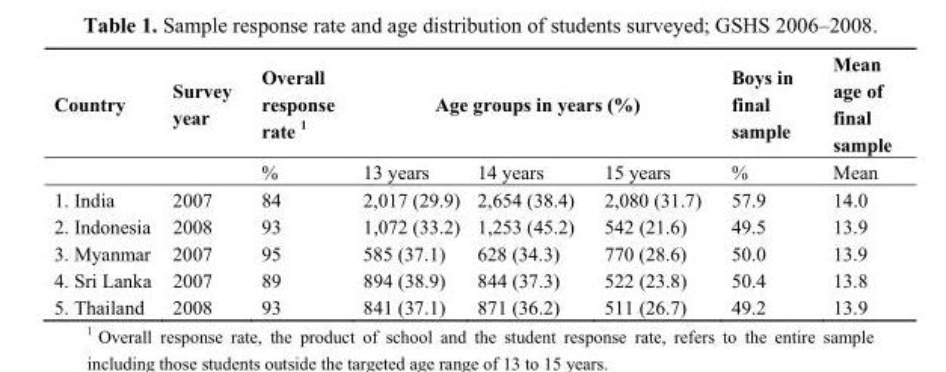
<table><thead><tr><td rowspan="2">Country</td><td rowspan="2">Survey year</td><td rowspan="2">Overall response rate <sup>1</sup> %</td><td colspan="3">Age groups in years (%)</td><td rowspan="2">Boys in final sample %</td><td rowspan="2">Mean age of final sample Mean</td></tr><tr><td>13 years</td><td>14 years</td><td>15 years</td></tr></thead><tbody><tr><td>1. India</td><td>2007</td><td>84</td><td>2,017 (29.9)</td><td>2,654 (38.4)</td><td>2,080 (31.7)</td><td>57.9</td><td>14.0</td></tr><tr><td>2. Indonesia</td><td>2008</td><td>93</td><td>1,072 (33.2)</td><td>1,253 (45.2)</td><td>542 (21.6)</td><td>49.5</td><td>13.9</td></tr><tr><td>3. Myanmar</td><td>2007</td><td>95</td><td>585 (37.1)</td><td>628 (34.3)</td><td>770 (28.6)</td><td>50.0</td><td>13.9</td></tr><tr><td>4. Sri Lanka</td><td>2007</td><td>89</td><td>894 (38.9)</td><td>844 (37.3)</td><td>522 (23.8)</td><td>50.4</td><td>13.8</td></tr><tr><td>5. Thailand</td><td>2008</td><td>93</td><td>841 (37.1)</td><td>871 (36.2)</td><td>511 (26.7)</td><td>49.2</td><td>13.9</td></tr></tbody></table>